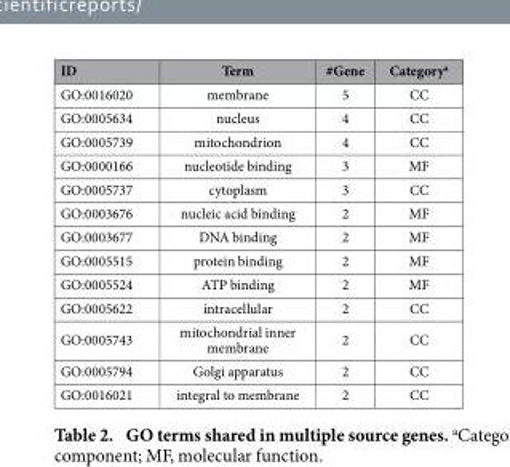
<table><thead><tr><td>ID</td><td>Term</td><td>#Gene</td><td>Category<sup>a</sup></td></tr></thead><tbody><tr><td>GO:0016020</td><td>membrane</td><td>5</td><td>CC</td></tr><tr><td>GO:0005634</td><td>nucleus</td><td>4</td><td>CC</td></tr><tr><td>GO:0005739</td><td>mitochondrion</td><td>4</td><td>CC</td></tr><tr><td>GO:0000166</td><td>nucleotide binding</td><td>3</td><td>MF</td></tr><tr><td>GO:0005737</td><td>cytoplasm</td><td>3</td><td>CC</td></tr><tr><td>GO:0003676</td><td>nucleic acid binding</td><td>2</td><td>MF</td></tr><tr><td>GO:0003677</td><td>DNA binding</td><td>2</td><td>MF</td></tr><tr><td>GO:0005515</td><td>protein binding</td><td>2</td><td>MF</td></tr><tr><td>GO:0005524</td><td>ATP binding</td><td>2</td><td>MF</td></tr><tr><td>GO:0005622</td><td>intracellular</td><td>2</td><td>CC</td></tr><tr><td>GO:0005743</td><td>mitochondrial inner membrane</td><td>2</td><td>CC</td></tr><tr><td>GO:0005794</td><td>Golgi apparatus</td><td>2</td><td>CC</td></tr><tr><td>GO:0016021</td><td>integral to membrane</td><td>2</td><td>CC</td></tr></tbody></table>